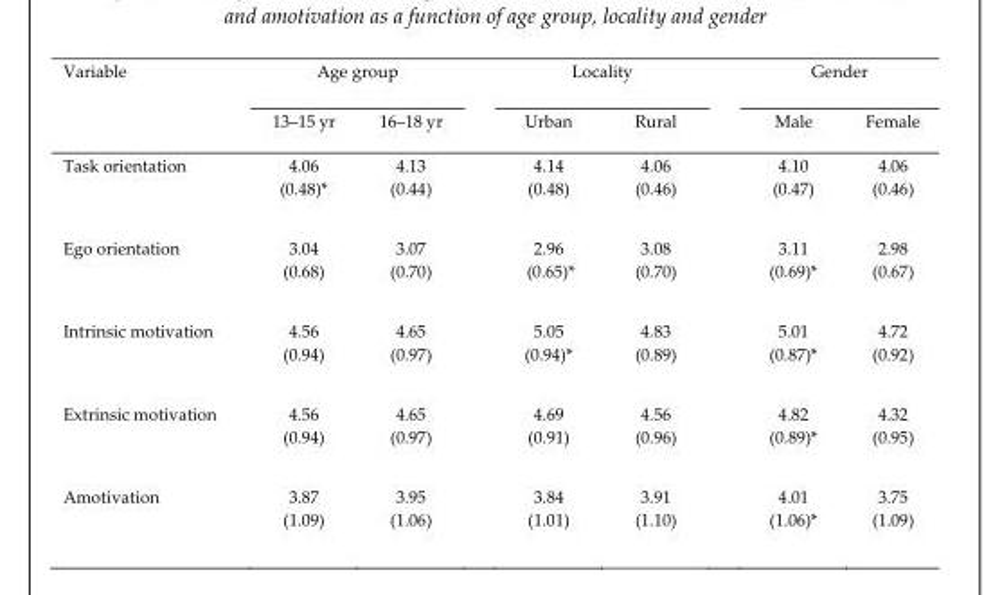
<table><thead><tr><td rowspan="2">Variable</td><td colspan="2">Age group</td><td colspan="2">Locality</td><td colspan="2">Gender</td></tr><tr><td>13–15 yr</td><td>16–18 yr</td><td>Urban</td><td>Rural</td><td>Male</td><td>Female</td></tr></thead><tbody><tr><td>Task orientation</td><td>4.06 (0.48)*</td><td>4.13 (0.44)</td><td>4.14 (0.48)</td><td>4.06 (0.46)</td><td>4.10 (0.47)</td><td>4.06 (0.46)</td></tr><tr><td>Ego orientation</td><td>3.04 (0.68)</td><td>3.07 (0.70)</td><td>2.96 (0.65)*</td><td>3.08 (0.70)</td><td>3.11 (0.69)*</td><td>2.98 (0.67)</td></tr><tr><td>Intrinsic motivation</td><td>4.56 (0.94)</td><td>4.65 (0.97)</td><td>5.05 (0.94)*</td><td>4.83 (0.89)</td><td>5.01 (0.87)*</td><td>4.72 (0.92)</td></tr><tr><td>Extrinsic motivation</td><td>4.56 (0.94)</td><td>4.65 (0.97)</td><td>4.69 (0.91)</td><td>4.56 (0.96)</td><td>4.82 (0.89)*</td><td>4.32 (0.95)</td></tr><tr><td>Amotivation</td><td>3.87 (1.09)</td><td>3.95 (1.06)</td><td>3.84 (1.01)</td><td>3.91 (1.10)</td><td>4.01 (1.06)*</td><td>3.75 (1.09)</td></tr></tbody></table>